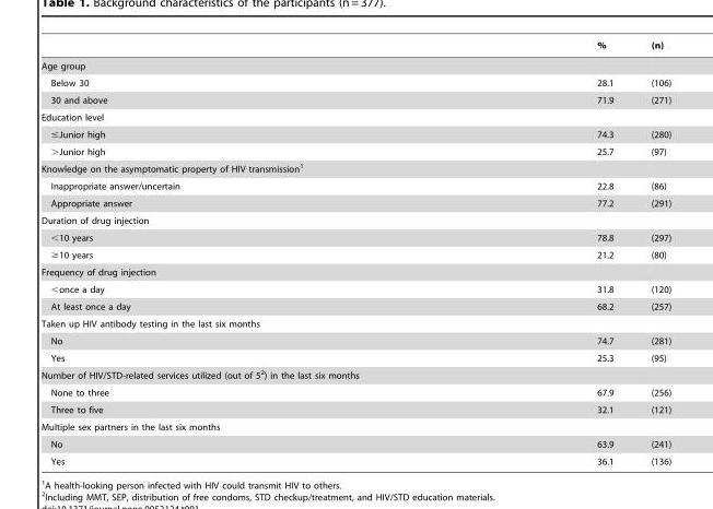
<table><thead><tr><td></td><td>%</td><td>(n)</td></tr></thead><tbody><tr><td colspan="3">Age group</td></tr><tr><td>Below 30</td><td>28.1</td><td>(106)</td></tr><tr><td>30 and above</td><td>71.9</td><td>(271)</td></tr><tr><td colspan="3">Education level</td></tr><tr><td>≤Junior high</td><td>74.3</td><td>(280)</td></tr><tr><td>&gt;Junior high</td><td>25.7</td><td>(97)</td></tr><tr><td colspan="3">Knowledge on the asymptomatic property of HIV transmission<sup>1</sup></td></tr><tr><td>Inappropriate answer/uncertain</td><td>22.8</td><td>(86)</td></tr><tr><td>Appropriate answer</td><td>77.2</td><td>(291)</td></tr><tr><td colspan="3">Duration of drug injection</td></tr><tr><td>&lt;10 years</td><td>78.8</td><td>(297)</td></tr><tr><td>≥10 years</td><td>21.2</td><td>(80)</td></tr><tr><td colspan="3">Frequency of drug injection</td></tr><tr><td>&lt;once a day</td><td>31.8</td><td>(120)</td></tr><tr><td>At least once a day</td><td>68.2</td><td>(257)</td></tr><tr><td colspan="3">Taken up HIV antibody testing in the last six months</td></tr><tr><td>No</td><td>74.7</td><td>(281)</td></tr><tr><td>Yes</td><td>25.3</td><td>(95)</td></tr><tr><td colspan="3">Number of HIV/STD-related services utilized (out of 5<sup>2</sup>) in the last six months</td></tr><tr><td>None to three</td><td>67.9</td><td>(256)</td></tr><tr><td>Three to five</td><td>32.1</td><td>(121)</td></tr><tr><td colspan="3">Multiple sex partners in the last six months</td></tr><tr><td>No</td><td>63.9</td><td>(241)</td></tr><tr><td>Yes</td><td>36.1</td><td>(136)</td></tr></tbody></table>